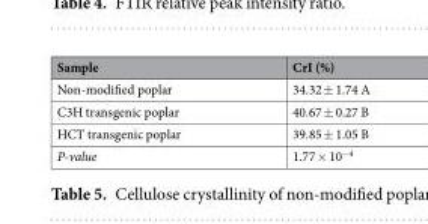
<table><thead><tr><td>Sample</td><td>CrI (%)</td></tr></thead><tbody><tr><td>Non-modified poplar</td><td>34.32 ± 1.74 A</td></tr><tr><td>C3H transgenic poplar</td><td>40.67 ± 0.27 B</td></tr><tr><td>HCT transgenic poplar</td><td>39.85 ± 1.05 B</td></tr><tr><td>P-value</td><td>1.77 × 10<sup>−4</sup></td></tr></tbody></table>